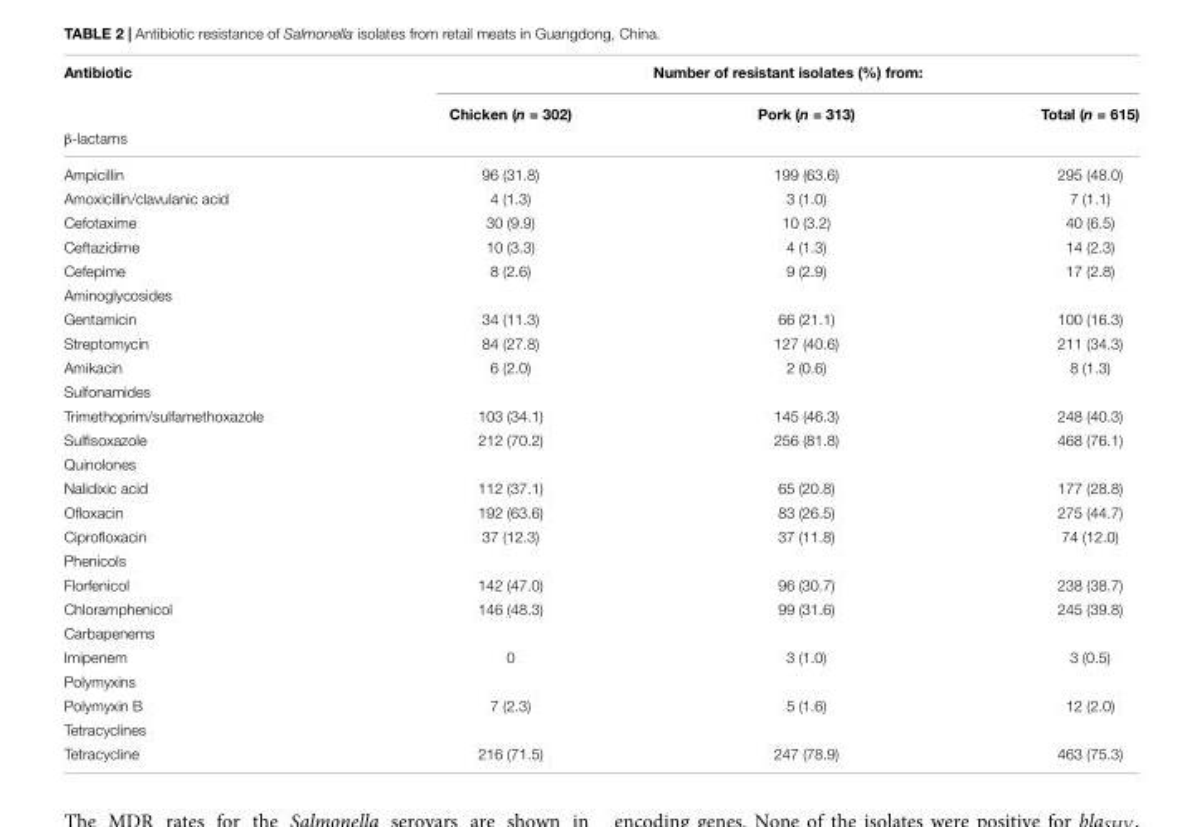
<table><thead><tr><td rowspan="2">Antibiotic</td><td colspan="3">Number of resistant isolates (%) from:</td></tr><tr><td>Chicken (n = 302)</td><td>Pork (n = 313)</td><td>Total (n = 615)</td></tr></thead><tbody><tr><td colspan="4">β-lactams</td></tr><tr><td>Ampicillin</td><td>96 (31.8)</td><td>199 (63.6)</td><td>295 (48.0)</td></tr><tr><td>Amoxicillin/clavulanic acid</td><td>4 (1.3)</td><td>3 (1.0)</td><td>7 (1.1)</td></tr><tr><td>Cefotaxime</td><td>30 (9.9)</td><td>10 (3.2)</td><td>40 (6.5)</td></tr><tr><td>Ceftazidime</td><td>10 (3.3)</td><td>4 (1.3)</td><td>14 (2.3)</td></tr><tr><td>Cefepime</td><td>8 (2.6)</td><td>9 (2.9)</td><td>17 (2.8)</td></tr><tr><td colspan="4">Aminoglycosides</td></tr><tr><td>Gentamicin</td><td>34 (11.3)</td><td>66 (21.1)</td><td>100 (16.3)</td></tr><tr><td>Streptomycin</td><td>84 (27.8)</td><td>127 (40.6)</td><td>211 (34.3)</td></tr><tr><td>Amikacin</td><td>6 (2.0)</td><td>2 (0.6)</td><td>8 (1.3)</td></tr><tr><td colspan="4">Sulfonamides</td></tr><tr><td>Trimethoprim/sulfamethoxazole</td><td>103 (34.1)</td><td>145 (46.3)</td><td>248 (40.3)</td></tr><tr><td>Sulfisoxazole</td><td>212 (70.2)</td><td>256 (81.8)</td><td>468 (76.1)</td></tr><tr><td colspan="4">Quinolones</td></tr><tr><td>Nalidixic acid</td><td>112 (37.1)</td><td>65 (20.8)</td><td>177 (28.8)</td></tr><tr><td>Ofloxacin</td><td>192 (63.6)</td><td>83 (26.5)</td><td>275 (44.7)</td></tr><tr><td>Ciprofloxacin</td><td>37 (12.3)</td><td>37 (11.8)</td><td>74 (12.0)</td></tr><tr><td colspan="4">Phenicols</td></tr><tr><td>Florfenicol</td><td>142 (47.0)</td><td>96 (30.7)</td><td>238 (38.7)</td></tr><tr><td>Chloramphenicol</td><td>146 (48.3)</td><td>99 (31.6)</td><td>245 (39.8)</td></tr><tr><td colspan="4">Carbapenems</td></tr><tr><td>Imipenem</td><td>0</td><td>3 (1.0)</td><td>3 (0.5)</td></tr><tr><td colspan="4">Polymyxins</td></tr><tr><td>Polymyxin B</td><td>7 (2.3)</td><td>5 (1.6)</td><td>12 (2.0)</td></tr><tr><td colspan="4">Tetracyclines</td></tr><tr><td>Tetracycline</td><td>216 (71.5)</td><td>247 (78.9)</td><td>463 (75.3)</td></tr></tbody></table>